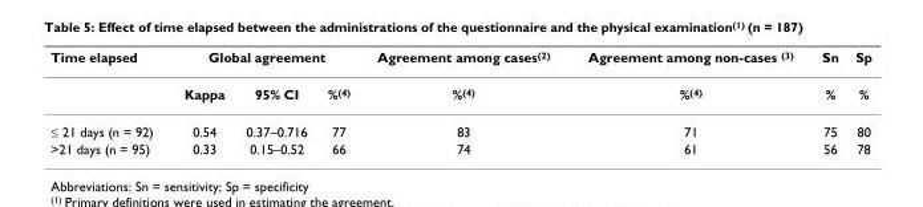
<table><thead><tr><td rowspan="2">Time elapsed</td><td colspan="3">Global agreement</td><td rowspan="2">Agreement among cases(2) %(4)</td><td rowspan="2">Agreement among non-cases (3) %(4)</td><td rowspan="2">Sn %</td><td rowspan="2">Sp %</td></tr><tr><td>Kappa</td><td>95% CI</td><td>%(4)</td></tr></thead><tbody><tr><td>≤ 21 days (n = 92)</td><td>0.54</td><td>0.37–0.716</td><td>77</td><td>83</td><td>71</td><td>75</td><td>80</td></tr><tr><td>&gt;21 days (n = 95)</td><td>0.33</td><td>0.15–0.52</td><td>66</td><td>74</td><td>61</td><td>56</td><td>78</td></tr></tbody></table>